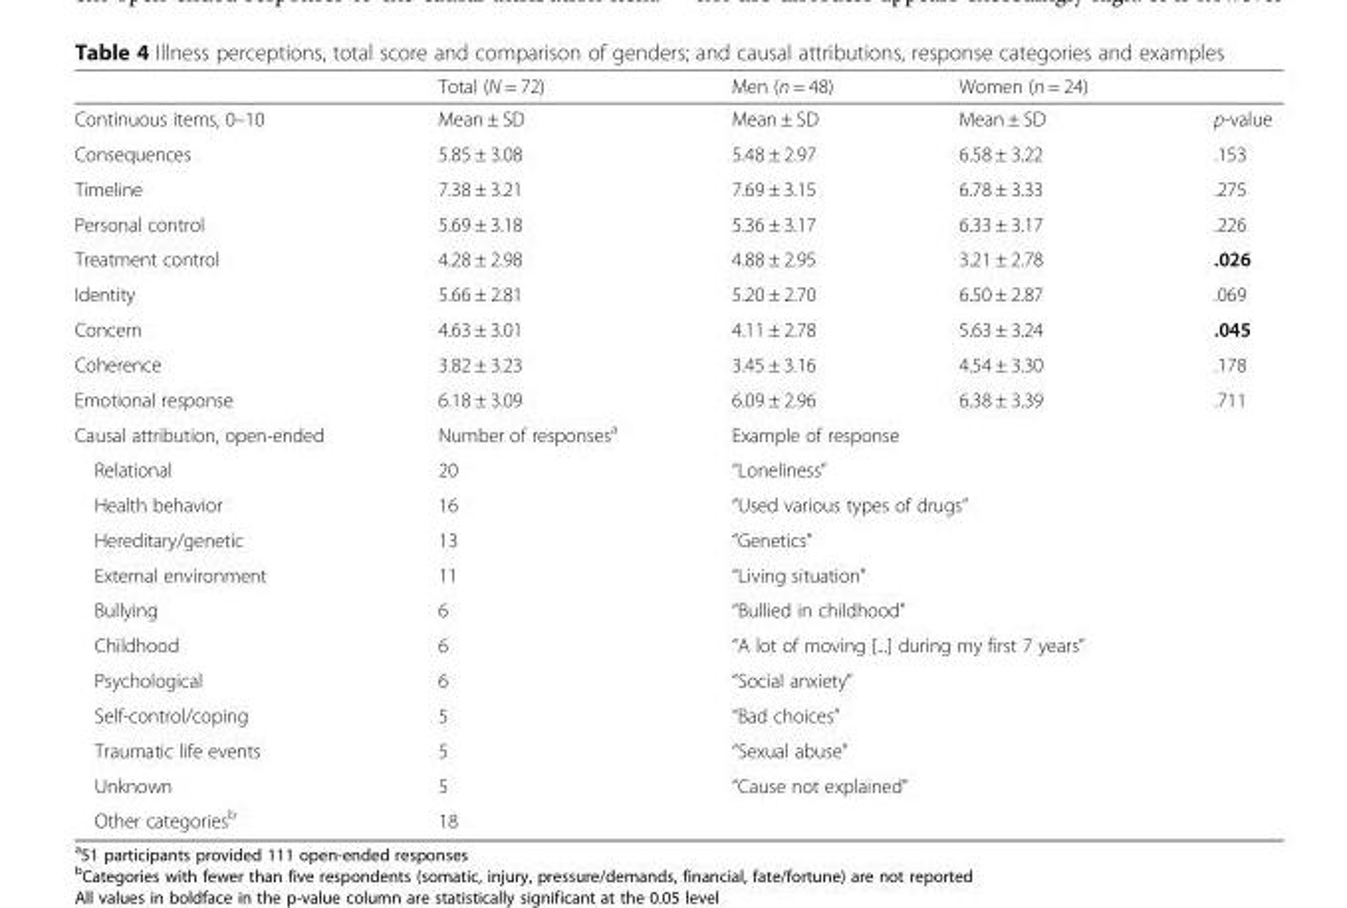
<table><thead><tr><td></td><td>Total (N = 72)</td><td>Men (n = 48)</td><td>Women (n = 24)</td><td></td></tr></thead><tbody><tr><td>Continuous items, 0–10</td><td>Mean ± SD</td><td>Mean ± SD</td><td>Mean ± SD</td><td>p-value</td></tr><tr><td>Consequences</td><td>5.85 ± 3.08</td><td>5.48 ± 2.97</td><td>6.58 ± 3.22</td><td>.153</td></tr><tr><td>Timeline</td><td>7.38 ± 3.21</td><td>7.69 ± 3.15</td><td>6.78 ± 3.33</td><td>.275</td></tr><tr><td>Personal control</td><td>5.69 ± 3.18</td><td>5.36 ± 3.17</td><td>6.33 ± 3.17</td><td>.226</td></tr><tr><td>Treatment control</td><td>4.28 ± 2.98</td><td>4.88 ± 2.95</td><td>3.21 ± 2.78</td><td>.026</td></tr><tr><td>Identity</td><td>5.66 ± 2.81</td><td>5.20 ± 2.70</td><td>6.50 ± 2.87</td><td>.069</td></tr><tr><td>Concern</td><td>4.63 ± 3.01</td><td>4.11 ± 2.78</td><td>5.63 ± 3.24</td><td>.045</td></tr><tr><td>Coherence</td><td>3.82 ± 3.23</td><td>3.45 ± 3.16</td><td>4.54 ± 3.30</td><td>.178</td></tr><tr><td>Emotional response</td><td>6.18 ± 3.09</td><td>6.09 ± 2.96</td><td>6.38 ± 3.39</td><td>.711</td></tr><tr><td>Causal attribution, open-ended</td><td>Number of responses<sup>a</sup></td><td colspan="3">Example of response</td></tr><tr><td>Relational</td><td>20</td><td colspan="3">“Loneliness”</td></tr><tr><td>Health behavior</td><td>16</td><td colspan="3">“Used various types of drugs”</td></tr><tr><td>Hereditary/genetic</td><td>13</td><td colspan="3">“Genetics”</td></tr><tr><td>External environment</td><td>11</td><td colspan="3">“Living situation”</td></tr><tr><td>Bullying</td><td>6</td><td colspan="3">“Bullied in childhood”</td></tr><tr><td>Childhood</td><td>6</td><td colspan="3">“A lot of moving [...] during my first 7 years”</td></tr><tr><td>Psychological</td><td>6</td><td colspan="3">“Social anxiety”</td></tr><tr><td>Self-control/coping</td><td>5</td><td colspan="3">“Bad choices”</td></tr><tr><td>Traumatic life events</td><td>5</td><td colspan="3">“Sexual abuse”</td></tr><tr><td>Unknown</td><td>5</td><td colspan="3">“Cause not explained”</td></tr><tr><td>Other categories<sup>b</sup></td><td>18</td><td colspan="3"></td></tr></tbody></table>